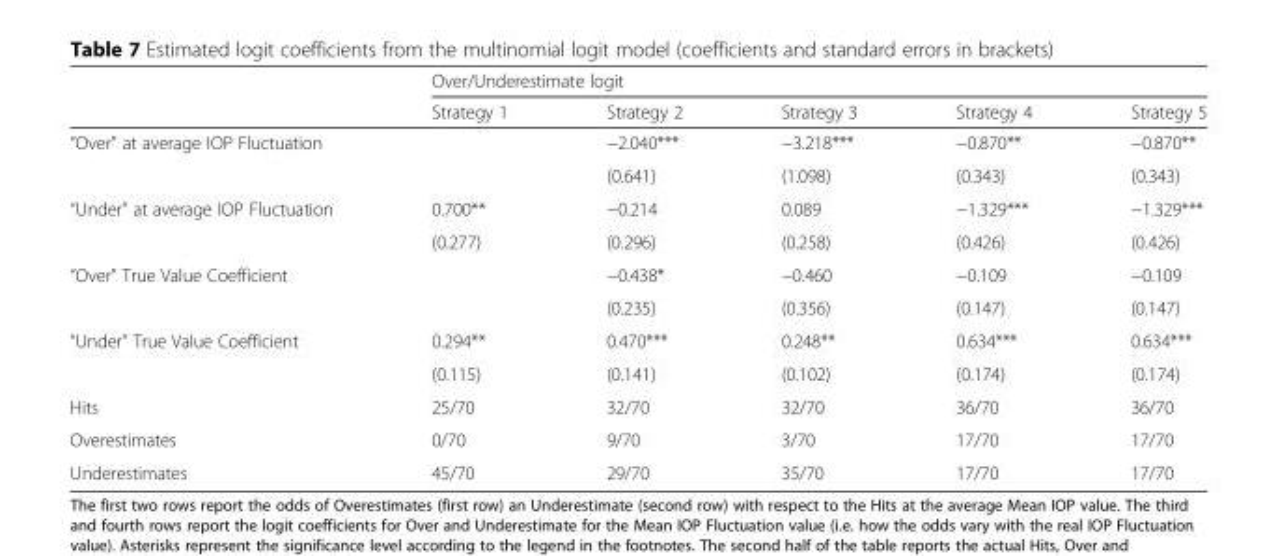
<table><thead><tr><td rowspan="2"></td><td colspan="5">Over/Underestimate logit</td></tr><tr><td>Strategy 1</td><td>Strategy 2</td><td>Strategy 3</td><td>Strategy 4</td><td>Strategy 5</td></tr></thead><tbody><tr><td rowspan="2">“Over” at average IOP Fluctuation</td><td></td><td>−2.040***</td><td>−3.218***</td><td>−0.870**</td><td>−0.870**</td></tr><tr><td></td><td>(0.641)</td><td>(1.098)</td><td>(0.343)</td><td>(0.343)</td></tr><tr><td rowspan="2">“Under” at average IOP Fluctuation</td><td>0.700**</td><td>−0.214</td><td>0.089</td><td>−1.329***</td><td>−1.329***</td></tr><tr><td>(0.277)</td><td>(0.296)</td><td>(0.258)</td><td>(0.426)</td><td>(0.426)</td></tr><tr><td rowspan="2">“Over” True Value Coefficient</td><td></td><td>−0.438*</td><td>−0.460</td><td>−0.109</td><td>−0.109</td></tr><tr><td></td><td>(0.235)</td><td>(0.356)</td><td>(0.147)</td><td>(0.147)</td></tr><tr><td rowspan="2">“Under” True Value Coefficient</td><td>0.294**</td><td>0.470***</td><td>0.248**</td><td>0.634***</td><td>0.634***</td></tr><tr><td>(0.115)</td><td>(0.141)</td><td>(0.102)</td><td>(0.174)</td><td>(0.174)</td></tr><tr><td>Hits</td><td>25/70</td><td>32/70</td><td>32/70</td><td>36/70</td><td>36/70</td></tr><tr><td>Overestimates</td><td>0/70</td><td>9/70</td><td>3/70</td><td>17/70</td><td>17/70</td></tr><tr><td>Underestimates</td><td>45/70</td><td>29/70</td><td>35/70</td><td>17/70</td><td>17/70</td></tr></tbody></table>